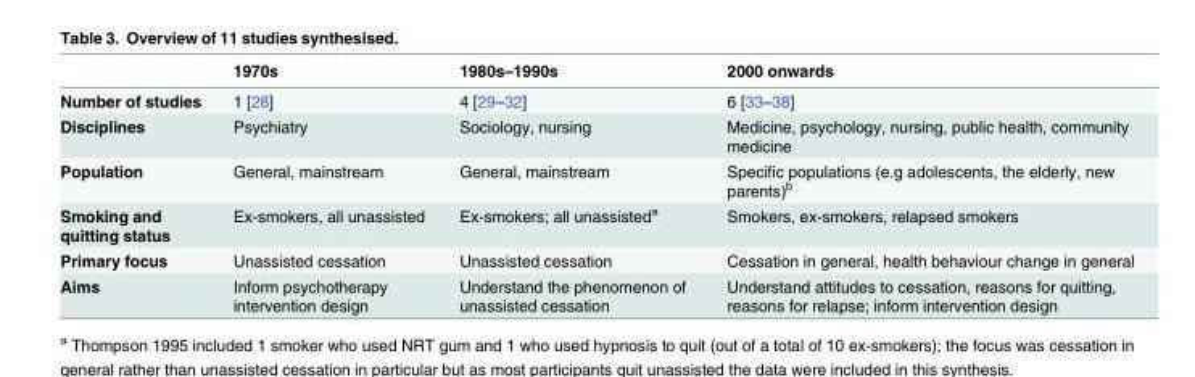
<table><thead><tr><td></td><td>1970s</td><td>1980s–1990s</td><td>2000 onwards</td></tr></thead><tbody><tr><td>Number of studies</td><td>1 [28]</td><td>4 [29–32]</td><td>6 [33–38]</td></tr><tr><td>Disciplines</td><td>Psychiatry</td><td>Sociology, nursing</td><td>Medicine, psychology, nursing, public health, community medicine</td></tr><tr><td>Population</td><td>General, mainstream</td><td>General, mainstream</td><td>Specific populations (e.g adolescents, the elderly, new parents)<sup>b</sup></td></tr><tr><td>Smoking and quitting status</td><td>Ex-smokers, all unassisted</td><td>Ex-smokers; all unassisted<sup>a</sup></td><td>Smokers, ex-smokers, relapsed smokers</td></tr><tr><td>Primary focus</td><td>Unassisted cessation</td><td>Unassisted cessation</td><td>Cessation in general, health behaviour change in general</td></tr><tr><td>Aims</td><td>Inform psychotherapy intervention design</td><td>Understand the phenomenon of unassisted cessation</td><td>Understand attitudes to cessation, reasons for quitting, reasons for relapse; inform intervention design</td></tr></tbody></table>